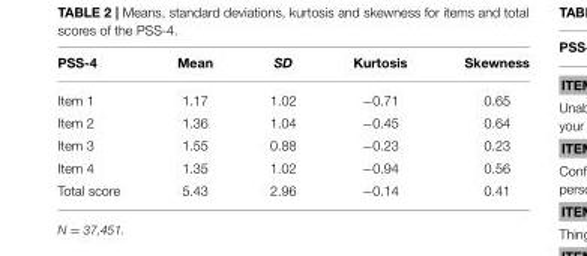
<table><thead><tr><td>PSS-4</td><td>Mean</td><td>SD</td><td>Kurtosis</td><td>Skewness</td></tr></thead><tbody><tr><td>Item 1</td><td>1.17</td><td>1.02</td><td>−0.71</td><td>0.65</td></tr><tr><td>Item 2</td><td>1.36</td><td>1.04</td><td>−0.45</td><td>0.64</td></tr><tr><td>Item 3</td><td>1.55</td><td>0.88</td><td>−0.23</td><td>0.23</td></tr><tr><td>Item 4</td><td>1.35</td><td>1.02</td><td>−0.94</td><td>0.56</td></tr><tr><td>Total score</td><td>5.43</td><td>2.96</td><td>−0.14</td><td>0.41</td></tr></tbody></table>